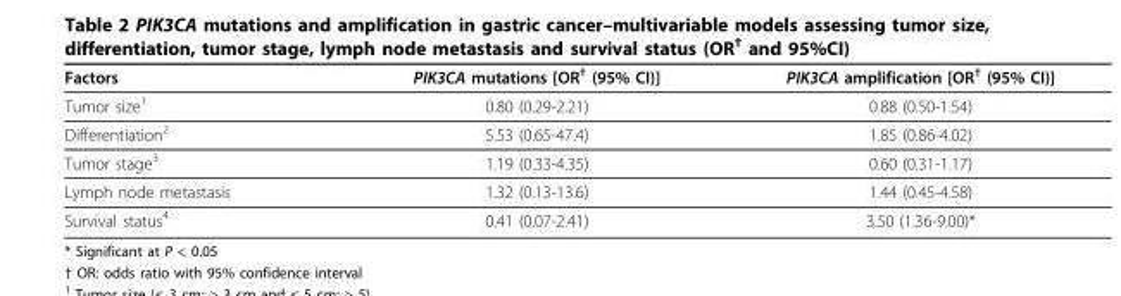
<table><thead><tr><td>Factors</td><td>PIK3CA mutations [OR<sup>†</sup> (95% CI)]</td><td>PIK3CA amplification [OR<sup>†</sup> (95% CI)]</td></tr></thead><tbody><tr><td>Tumor size<sup>1</sup></td><td>0.80 (0.29-2.21)</td><td>0.88 (0.50-1.54)</td></tr><tr><td>Differentiation<sup>2</sup></td><td>5.53 (0.65-47.4)</td><td>1.85 (0.86-4.02)</td></tr><tr><td>Tumor stage<sup>3</sup></td><td>1.19 (0.33-4.35)</td><td>0.60 (0.31-1.17)</td></tr><tr><td>Lymph node metastasis</td><td>1.32 (0.13-13.6)</td><td>1.44 (0.45-4.58)</td></tr><tr><td>Survival status<sup>4</sup></td><td>0.41 (0.07-2.41)</td><td>3.50 (1.36-9.00)*</td></tr></tbody></table>